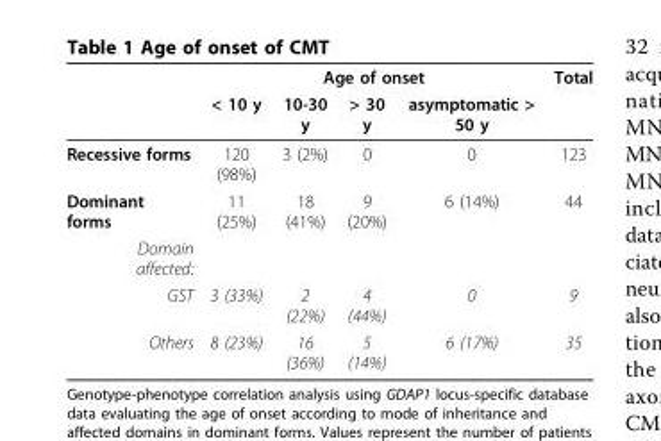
<table><thead><tr><td rowspan="2"></td><td colspan="4">Age of onset</td><td rowspan="2">Total</td></tr><tr><td>&lt; 10 y</td><td>10-30 y</td><td>&gt; 30 y</td><td>asymptomatic &gt; 50 y</td></tr></thead><tbody><tr><td>Recessive forms</td><td>120 (98%)</td><td>3 (2%)</td><td>0</td><td>0</td><td>123</td></tr><tr><td>Dominant forms</td><td>11 (25%)</td><td>18 (41%)</td><td>9 (20%)</td><td>6 (14%)</td><td>44</td></tr><tr><td colspan="6">Domain affected:</td></tr><tr><td>GST</td><td>3 (33%)</td><td>2 (22%)</td><td>4 (44%)</td><td>0</td><td>9</td></tr><tr><td>Others</td><td>8 (23%)</td><td>16 (36%)</td><td>5 (14%)</td><td>6 (17%)</td><td>35</td></tr></tbody></table>